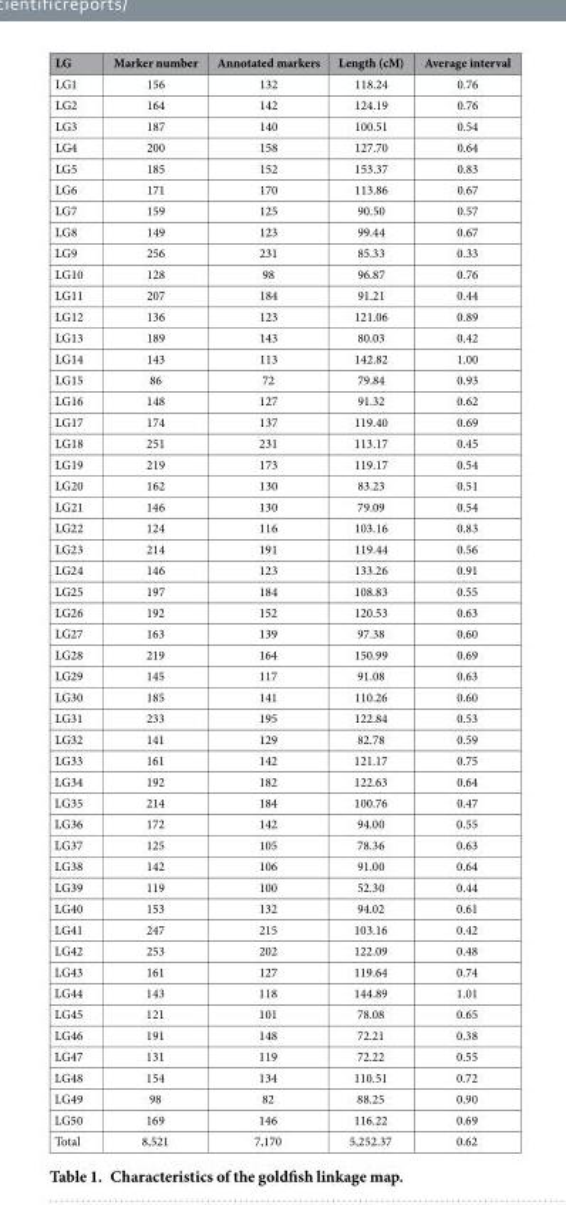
<table><thead><tr><td>LG</td><td>Marker number</td><td>Annotated markers</td><td>Length (cM)</td><td>Average interval</td></tr></thead><tbody><tr><td>LG1</td><td>156</td><td>132</td><td>118.24</td><td>0.76</td></tr><tr><td>LG2</td><td>164</td><td>142</td><td>124.19</td><td>0.76</td></tr><tr><td>LG3</td><td>187</td><td>140</td><td>100.51</td><td>0.54</td></tr><tr><td>LG4</td><td>200</td><td>158</td><td>127.70</td><td>0.64</td></tr><tr><td>LG5</td><td>185</td><td>152</td><td>153.37</td><td>0.83</td></tr><tr><td>LG6</td><td>171</td><td>170</td><td>113.86</td><td>0.67</td></tr><tr><td>LG7</td><td>159</td><td>125</td><td>90.50</td><td>0.57</td></tr><tr><td>LG8</td><td>149</td><td>123</td><td>99.44</td><td>0.67</td></tr><tr><td>LG9</td><td>256</td><td>231</td><td>85.33</td><td>0.33</td></tr><tr><td>LG10</td><td>128</td><td>98</td><td>96.87</td><td>0.76</td></tr><tr><td>LG11</td><td>207</td><td>184</td><td>91.21</td><td>0.44</td></tr><tr><td>LG12</td><td>136</td><td>123</td><td>121.06</td><td>0.89</td></tr><tr><td>LG13</td><td>189</td><td>143</td><td>80.03</td><td>0.42</td></tr><tr><td>LG14</td><td>143</td><td>113</td><td>142.82</td><td>1.00</td></tr><tr><td>LG15</td><td>86</td><td>72</td><td>79.84</td><td>0.93</td></tr><tr><td>LG16</td><td>148</td><td>127</td><td>91.32</td><td>0.62</td></tr><tr><td>LG17</td><td>174</td><td>137</td><td>119.40</td><td>0.69</td></tr><tr><td>LG18</td><td>251</td><td>231</td><td>113.17</td><td>0.45</td></tr><tr><td>LG19</td><td>219</td><td>173</td><td>119.17</td><td>0.54</td></tr><tr><td>LG20</td><td>162</td><td>130</td><td>83.23</td><td>0.51</td></tr><tr><td>LG21</td><td>146</td><td>130</td><td>79.09</td><td>0.54</td></tr><tr><td>LG22</td><td>124</td><td>116</td><td>103.16</td><td>0.83</td></tr><tr><td>LG23</td><td>214</td><td>191</td><td>119.44</td><td>0.56</td></tr><tr><td>LG24</td><td>146</td><td>123</td><td>133.26</td><td>0.91</td></tr><tr><td>LG25</td><td>197</td><td>184</td><td>108.83</td><td>0.55</td></tr><tr><td>LG26</td><td>192</td><td>152</td><td>120.53</td><td>0.63</td></tr><tr><td>LG27</td><td>163</td><td>139</td><td>97.38</td><td>0.60</td></tr><tr><td>LG28</td><td>219</td><td>164</td><td>150.99</td><td>0.69</td></tr><tr><td>LG29</td><td>145</td><td>117</td><td>91.08</td><td>0.63</td></tr><tr><td>LG30</td><td>185</td><td>141</td><td>110.26</td><td>0.60</td></tr><tr><td>LG31</td><td>233</td><td>195</td><td>122.84</td><td>0.53</td></tr><tr><td>LG32</td><td>141</td><td>129</td><td>82.78</td><td>0.59</td></tr><tr><td>LG33</td><td>161</td><td>142</td><td>121.17</td><td>0.75</td></tr><tr><td>LG34</td><td>192</td><td>182</td><td>122.63</td><td>0.64</td></tr><tr><td>LG35</td><td>214</td><td>184</td><td>100.76</td><td>0.47</td></tr><tr><td>LG36</td><td>172</td><td>142</td><td>94.00</td><td>0.55</td></tr><tr><td>LG37</td><td>125</td><td>105</td><td>78.36</td><td>0.63</td></tr><tr><td>LG38</td><td>142</td><td>106</td><td>91.00</td><td>0.64</td></tr><tr><td>LG39</td><td>119</td><td>100</td><td>52.30</td><td>0.44</td></tr><tr><td>LG40</td><td>153</td><td>132</td><td>94.02</td><td>0.61</td></tr><tr><td>LG41</td><td>247</td><td>215</td><td>103.16</td><td>0.42</td></tr><tr><td>LG42</td><td>253</td><td>202</td><td>122.09</td><td>0.48</td></tr><tr><td>LG43</td><td>161</td><td>127</td><td>119.64</td><td>0.74</td></tr><tr><td>LG44</td><td>143</td><td>118</td><td>144.89</td><td>1.01</td></tr><tr><td>LG45</td><td>121</td><td>101</td><td>78.08</td><td>0.65</td></tr><tr><td>LG46</td><td>191</td><td>148</td><td>72.21</td><td>0.38</td></tr><tr><td>LG47</td><td>131</td><td>119</td><td>72.22</td><td>0.55</td></tr><tr><td>LG48</td><td>154</td><td>134</td><td>110.51</td><td>0.72</td></tr><tr><td>LG49</td><td>98</td><td>82</td><td>88.25</td><td>0.90</td></tr><tr><td>LG50</td><td>169</td><td>146</td><td>116.22</td><td>0.69</td></tr><tr><td>Total</td><td>8,521</td><td>7,170</td><td>5,252.37</td><td>0.62</td></tr></tbody></table>